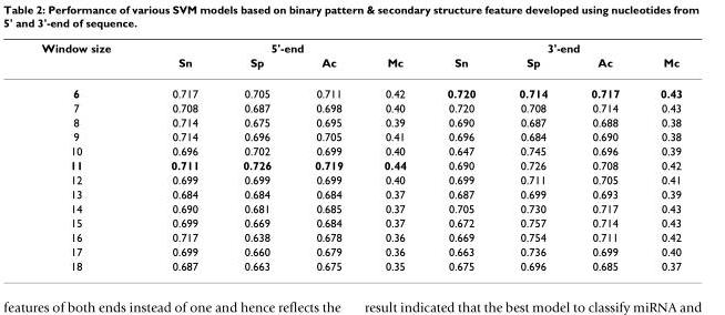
<table><thead><tr><td rowspan="2">Window size</td><td colspan="4">5&#x27;-end</td><td colspan="4">3&#x27;-end</td></tr><tr><td>Sn</td><td>Sp</td><td>Ac</td><td>Mc</td><td>Sn</td><td>Sp</td><td>Ac</td><td>Mc</td></tr></thead><tbody><tr><td>6</td><td>0.717</td><td>0.705</td><td>0.711</td><td>0.42</td><td>0.720</td><td>0.714</td><td>0.717</td><td>0.43</td></tr><tr><td>7</td><td>0.708</td><td>0.687</td><td>0.698</td><td>0.40</td><td>0.720</td><td>0.708</td><td>0.714</td><td>0.43</td></tr><tr><td>8</td><td>0.714</td><td>0.675</td><td>0.695</td><td>0.39</td><td>0.690</td><td>0.687</td><td>0.688</td><td>0.38</td></tr><tr><td>9</td><td>0.714</td><td>0.696</td><td>0.705</td><td>0.41</td><td>0.696</td><td>0.684</td><td>0.690</td><td>0.38</td></tr><tr><td>10</td><td>0.696</td><td>0.702</td><td>0.699</td><td>0.40</td><td>0.647</td><td>0.745</td><td>0.696</td><td>0.39</td></tr><tr><td>11</td><td>0.711</td><td>0.726</td><td>0.719</td><td>0.44</td><td>0.690</td><td>0.726</td><td>0.708</td><td>0.42</td></tr><tr><td>12</td><td>0.699</td><td>0.699</td><td>0.699</td><td>0.40</td><td>0.699</td><td>0.711</td><td>0.705</td><td>0.41</td></tr><tr><td>13</td><td>0.684</td><td>0.684</td><td>0.684</td><td>0.37</td><td>0.687</td><td>0.699</td><td>0.693</td><td>0.39</td></tr><tr><td>14</td><td>0.690</td><td>0.681</td><td>0.685</td><td>0.37</td><td>0.705</td><td>0.730</td><td>0.717</td><td>0.43</td></tr><tr><td>15</td><td>0.699</td><td>0.669</td><td>0.684</td><td>0.37</td><td>0.672</td><td>0.757</td><td>0.714</td><td>0.43</td></tr><tr><td>16</td><td>0.717</td><td>0.638</td><td>0.678</td><td>0.36</td><td>0.669</td><td>0.754</td><td>0.711</td><td>0.42</td></tr><tr><td>17</td><td>0.699</td><td>0.660</td><td>0.679</td><td>0.36</td><td>0.663</td><td>0.736</td><td>0.699</td><td>0.40</td></tr><tr><td>18</td><td>0.687</td><td>0.663</td><td>0.675</td><td>0.35</td><td>0.675</td><td>0.696</td><td>0.685</td><td>0.37</td></tr></tbody></table>